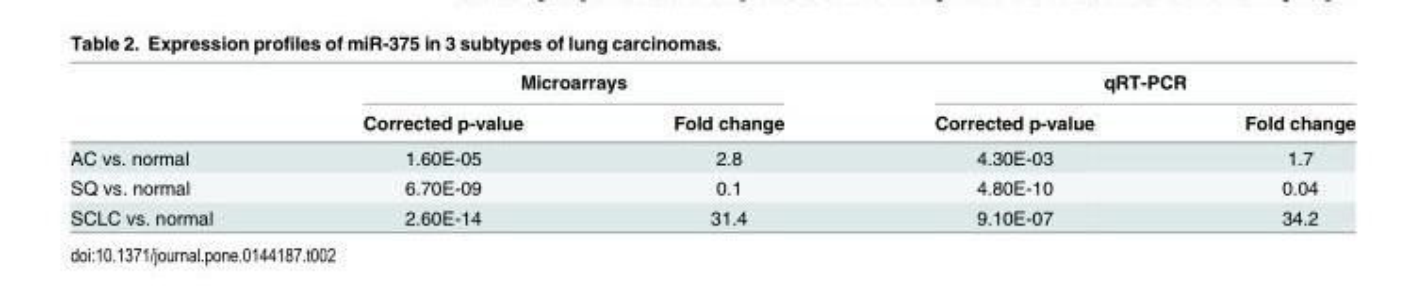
<table><thead><tr><td rowspan="2"></td><td colspan="2">Microarrays</td><td colspan="2">qRT-PCR</td></tr><tr><td>Corrected p-value</td><td>Fold change</td><td>Corrected p-value</td><td>Fold change</td></tr></thead><tbody><tr><td>AC vs. normal</td><td>1.60E-05</td><td>2.8</td><td>4.30E-03</td><td>1.7</td></tr><tr><td>SQ vs. normal</td><td>6.70E-09</td><td>0.1</td><td>4.80E-10</td><td>0.04</td></tr><tr><td>SCLC vs. normal</td><td>2.60E-14</td><td>31.4</td><td>9.10E-07</td><td>34.2</td></tr></tbody></table>